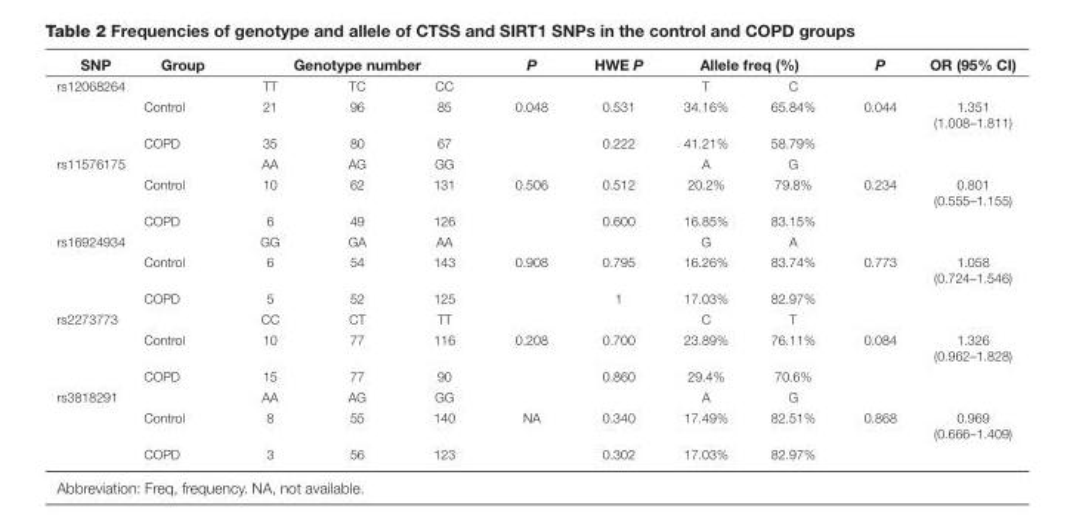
<table><thead><tr><td rowspan="2">SNP rs12068264</td><td rowspan="2">Group</td><td colspan="3">Genotype number</td><td rowspan="2">P</td><td rowspan="2">HWE P</td><td colspan="2">Allele freq (%)</td><td rowspan="2">P</td><td rowspan="2">OR (95% CI)</td></tr><tr><td>TT</td><td>TC</td><td>CC</td><td>T</td><td>C</td></tr></thead><tbody><tr><td></td><td>Control</td><td>21</td><td>96</td><td>85</td><td>0.048</td><td>0.531</td><td>34.16%</td><td>65.84%</td><td>0.044</td><td>1.351 (1.008–1.811)</td></tr><tr><td></td><td>COPD</td><td>35</td><td>80</td><td>67</td><td></td><td>0.222</td><td>41.21%</td><td>58.79%</td><td></td><td></td></tr><tr><td rowspan="3">rs11576175</td><td></td><td>AA</td><td>AG</td><td>GG</td><td></td><td></td><td>A</td><td>G</td><td></td><td></td></tr><tr><td>Control</td><td>10</td><td>62</td><td>131</td><td>0.506</td><td>0.512</td><td>20.2%</td><td>79.8%</td><td>0.234</td><td>0.801 (0.555–1.155)</td></tr><tr><td>COPD</td><td>6</td><td>49</td><td>126</td><td></td><td>0.600</td><td>16.85%</td><td>83.15%</td><td></td><td></td></tr><tr><td rowspan="3">rs16924934</td><td></td><td>GG</td><td>GA</td><td>AA</td><td></td><td></td><td>G</td><td>A</td><td></td><td></td></tr><tr><td>Control</td><td>6</td><td>54</td><td>143</td><td>0.908</td><td>0.795</td><td>16.26%</td><td>83.74%</td><td>0.773</td><td>1.058 (0.724–1.546)</td></tr><tr><td>COPD</td><td>5</td><td>52</td><td>125</td><td></td><td>1</td><td>17.03%</td><td>82.97%</td><td></td><td></td></tr><tr><td rowspan="3">rs2273773</td><td></td><td>CC</td><td>CT</td><td>TT</td><td></td><td></td><td>C</td><td>T</td><td></td><td></td></tr><tr><td>Control</td><td>10</td><td>77</td><td>116</td><td>0.208</td><td>0.700</td><td>23.89%</td><td>76.11%</td><td>0.084</td><td>1.326 (0.962–1.828)</td></tr><tr><td>COPD</td><td>15</td><td>77</td><td>90</td><td></td><td>0.860</td><td>29.4%</td><td>70.6%</td><td></td><td></td></tr><tr><td rowspan="3">rs3818291</td><td></td><td>AA</td><td>AG</td><td>GG</td><td></td><td></td><td>A</td><td>G</td><td></td><td></td></tr><tr><td>Control</td><td>8</td><td>55</td><td>140</td><td>NA</td><td>0.340</td><td>17.49%</td><td>82.51%</td><td>0.868</td><td>0.969 (0.666–1.409)</td></tr><tr><td>COPD</td><td>3</td><td>56</td><td>123</td><td></td><td>0.302</td><td>17.03%</td><td>82.97%</td><td></td><td></td></tr></tbody></table>